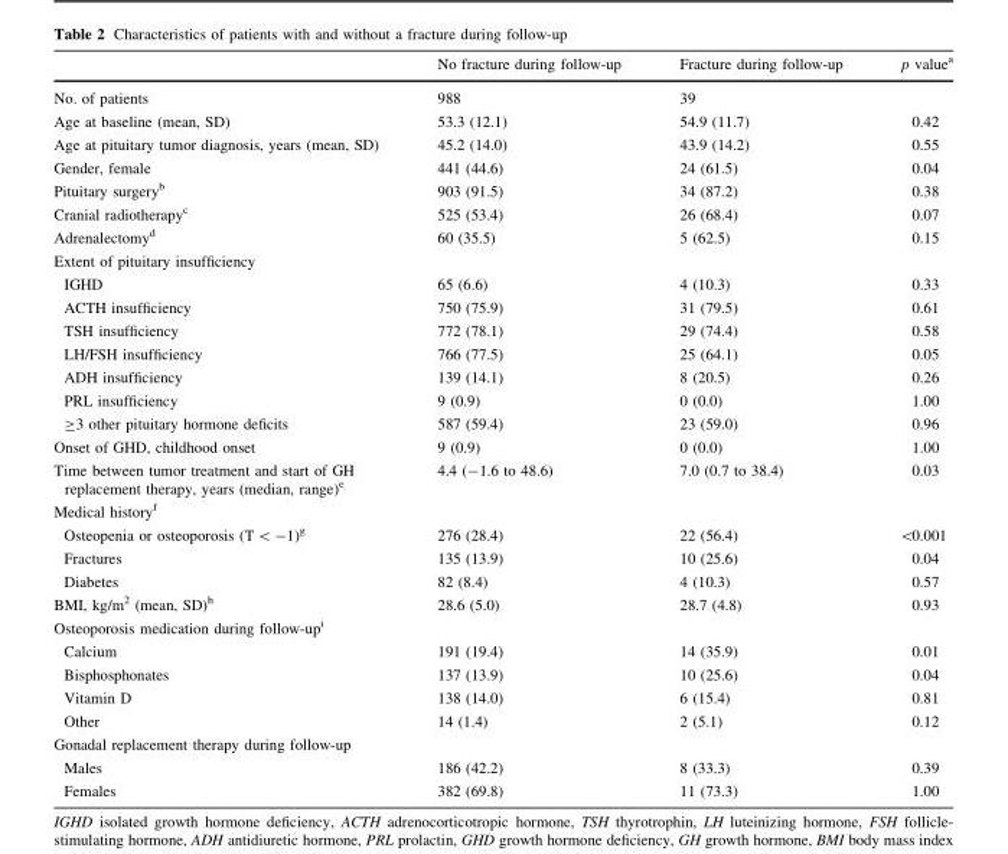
<table><thead><tr><td></td><td>No fracture during follow-up</td><td>Fracture during follow-up</td><td>p value<sup>a</sup></td></tr></thead><tbody><tr><td>No. of patients</td><td>988</td><td>39</td><td></td></tr><tr><td>Age at baseline (mean, SD)</td><td>53.3 (12.1)</td><td>54.9 (11.7)</td><td>0.42</td></tr><tr><td>Age at pituitary tumor diagnosis, years (mean, SD)</td><td>45.2 (14.0)</td><td>43.9 (14.2)</td><td>0.55</td></tr><tr><td>Gender, female</td><td>441 (44.6)</td><td>24 (61.5)</td><td>0.04</td></tr><tr><td>Pituitary surgery<sup>b</sup></td><td>903 (91.5)</td><td>34 (87.2)</td><td>0.38</td></tr><tr><td>Cranial radiotherapy<sup>c</sup></td><td>525 (53.4)</td><td>26 (68.4)</td><td>0.07</td></tr><tr><td>Adrenalectomy<sup>d</sup></td><td>60 (35.5)</td><td>5 (62.5)</td><td>0.15</td></tr><tr><td colspan="4">Extent of pituitary insufficiency</td></tr><tr><td>IGHD</td><td>65 (6.6)</td><td>4 (10.3)</td><td>0.33</td></tr><tr><td>ACTH insufficiency</td><td>750 (75.9)</td><td>31 (79.5)</td><td>0.61</td></tr><tr><td>TSH insufficiency</td><td>772 (78.1)</td><td>29 (74.4)</td><td>0.58</td></tr><tr><td>LH/FSH insufficiency</td><td>766 (77.5)</td><td>25 (64.1)</td><td>0.05</td></tr><tr><td>ADH insufficiency</td><td>139 (14.1)</td><td>8 (20.5)</td><td>0.26</td></tr><tr><td>PRL insufficiency</td><td>9 (0.9)</td><td>0 (0.0)</td><td>1.00</td></tr><tr><td>≥3 other pituitary hormone deficits</td><td>587 (59.4)</td><td>23 (59.0)</td><td>0.96</td></tr><tr><td>Onset of GHD, childhood onset</td><td>9 (0.9)</td><td>0 (0.0)</td><td>1.00</td></tr><tr><td>Time between tumor treatment and start of GH replacement therapy, years (median, range)<sup>e</sup></td><td>4.4 (-1.6 to 48.6)</td><td>7.0 (0.7 to 38.4)</td><td>0.03</td></tr><tr><td colspan="4">Medical history<sup>f</sup></td></tr><tr><td>Osteopenia or osteoporosis (T &lt; -1)<sup>g</sup></td><td>276 (28.4)</td><td>22 (56.4)</td><td>&lt;0.001</td></tr><tr><td>Fractures</td><td>135 (13.9)</td><td>10 (25.6)</td><td>0.04</td></tr><tr><td>Diabetes</td><td>82 (8.4)</td><td>4 (10.3)</td><td>0.57</td></tr><tr><td>BMI, kg/m<sup>2</sup> (mean, SD)<sup>h</sup></td><td>28.6 (5.0)</td><td>28.7 (4.8)</td><td>0.93</td></tr><tr><td colspan="4">Osteoporosis medication during follow-up<sup>i</sup></td></tr><tr><td>Calcium</td><td>191 (19.4)</td><td>14 (35.9)</td><td>0.01</td></tr><tr><td>Bisphosphonates</td><td>137 (13.9)</td><td>10 (25.6)</td><td>0.04</td></tr><tr><td>Vitamin D</td><td>138 (14.0)</td><td>6 (15.4)</td><td>0.81</td></tr><tr><td>Other</td><td>14 (1.4)</td><td>2 (5.1)</td><td>0.12</td></tr><tr><td colspan="4">Gonadal replacement therapy during follow-up</td></tr><tr><td>Males</td><td>186 (42.2)</td><td>8 (33.3)</td><td>0.39</td></tr><tr><td>Females</td><td>382 (69.8)</td><td>11 (73.3)</td><td>1.00</td></tr></tbody></table>